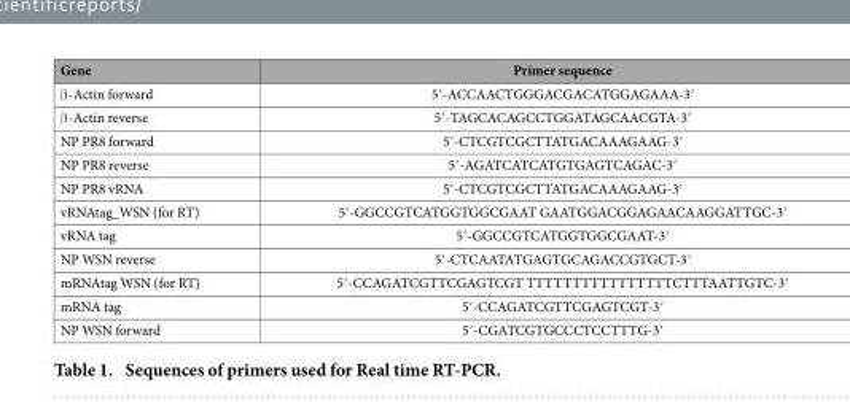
<table><thead><tr><td>Gene</td><td>Primer sequence</td></tr></thead><tbody><tr><td>β -Actin forward</td><td>5′-ACCAACTGGGACGACATGGAGAAA-3′</td></tr><tr><td>β -Actin reverse</td><td>5′-TAGCACAGCCTGGATAGCAACGTA-3′</td></tr><tr><td>NP PR8 forward</td><td>5′-CTCGTCGCTTATGACAAAGAAG-3′</td></tr><tr><td>NP PR8 reverse</td><td>5′-AGATCATCATGTGAGTCAGAC-3′</td></tr><tr><td>NP PR8 vRNA</td><td>5′-CTCGTCGCTTATGACAAAGAAG-3′</td></tr><tr><td>vRNAtag_WSN (for RT)</td><td>5′-GGCCGTCATGGTGGCGAAT GAATGGACGGAGAACAAGGATTGC-3′</td></tr><tr><td>vRNA tag</td><td>5′-GGCCGTCATGGTGGCGAAT-3′</td></tr><tr><td>NP WSN reverse</td><td>5′-CTCAATATGAGTGCAGACCGTGCT-3′</td></tr><tr><td>mRNAtag WSN (for RT)</td><td>5′-CCAGATCGTTCGAGTCGT TTTTTTTTTTTTTTTTCTTTAATTGTC-3′</td></tr><tr><td>mRNA tag</td><td>5′-CCAGATCGTTCGAGTCGT-3′</td></tr><tr><td>NP WSN forward</td><td>5′-CGATCGTGCCCTCCTTTG-3′</td></tr></tbody></table>